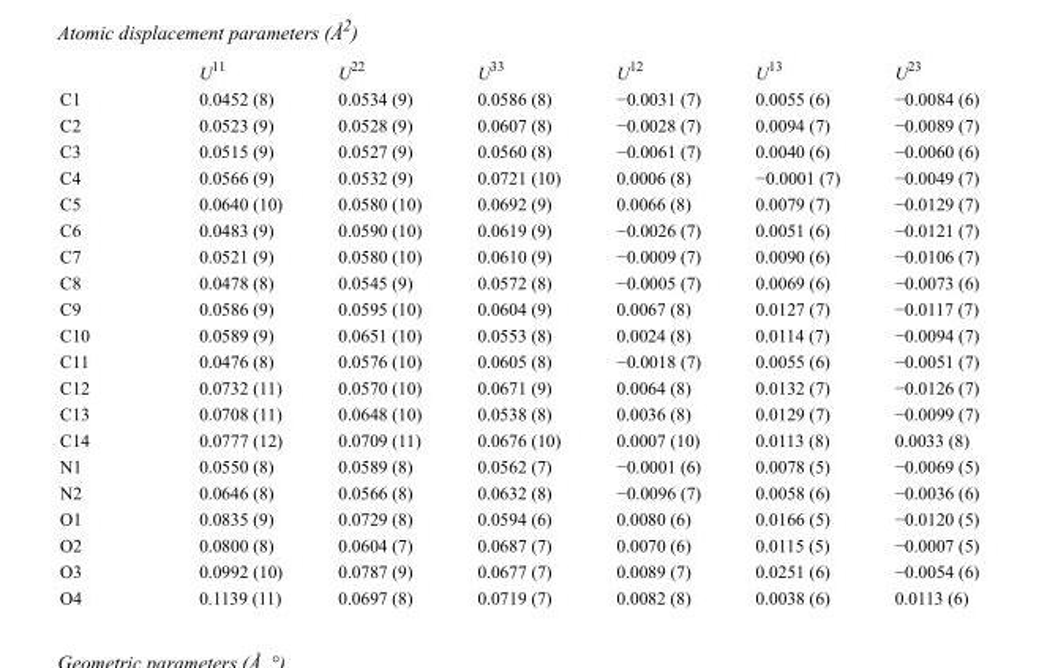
<table><thead><tr><td></td><td>U<sup>11</sup></td><td>U<sup>22</sup></td><td>U<sup>33</sup></td><td>U<sup>12</sup></td><td>U<sup>13</sup></td><td>U<sup>23</sup></td></tr></thead><tbody><tr><td>C1</td><td>0.0452 (8)</td><td>0.0534 (9)</td><td>0.0586 (8)</td><td>−0.0031 (7)</td><td>0.0055 (6)</td><td>−0.0084 (6)</td></tr><tr><td>C2</td><td>0.0523 (9)</td><td>0.0528 (9)</td><td>0.0607 (8)</td><td>−0.0028 (7)</td><td>0.0094 (7)</td><td>−0.0089 (7)</td></tr><tr><td>C3</td><td>0.0515 (9)</td><td>0.0527 (9)</td><td>0.0560 (8)</td><td>−0.0061 (7)</td><td>0.0040 (6)</td><td>−0.0060 (6)</td></tr><tr><td>C4</td><td>0.0566 (9)</td><td>0.0532 (9)</td><td>0.0721 (10)</td><td>0.0006 (8)</td><td>−0.0001 (7)</td><td>−0.0049 (7)</td></tr><tr><td>C5</td><td>0.0640 (10)</td><td>0.0580 (10)</td><td>0.0692 (9)</td><td>0.0066 (8)</td><td>0.0079 (7)</td><td>−0.0129 (7)</td></tr><tr><td>C6</td><td>0.0483 (9)</td><td>0.0590 (10)</td><td>0.0619 (9)</td><td>−0.0026 (7)</td><td>0.0051 (6)</td><td>−0.0121 (7)</td></tr><tr><td>C7</td><td>0.0521 (9)</td><td>0.0580 (10)</td><td>0.0610 (9)</td><td>−0.0009 (7)</td><td>0.0090 (6)</td><td>−0.0106 (7)</td></tr><tr><td>C8</td><td>0.0478 (8)</td><td>0.0545 (9)</td><td>0.0572 (8)</td><td>−0.0005 (7)</td><td>0.0069 (6)</td><td>−0.0073 (6)</td></tr><tr><td>C9</td><td>0.0586 (9)</td><td>0.0595 (10)</td><td>0.0604 (9)</td><td>0.0067 (8)</td><td>0.0127 (7)</td><td>−0.0117 (7)</td></tr><tr><td>C10</td><td>0.0589 (9)</td><td>0.0651 (10)</td><td>0.0553 (8)</td><td>0.0024 (8)</td><td>0.0114 (7)</td><td>−0.0094 (7)</td></tr><tr><td>C11</td><td>0.0476 (8)</td><td>0.0576 (10)</td><td>0.0605 (8)</td><td>−0.0018 (7)</td><td>0.0055 (6)</td><td>−0.0051 (7)</td></tr><tr><td>C12</td><td>0.0732 (11)</td><td>0.0570 (10)</td><td>0.0671 (9)</td><td>0.0064 (8)</td><td>0.0132 (7)</td><td>−0.0126 (7)</td></tr><tr><td>C13</td><td>0.0708 (11)</td><td>0.0648 (10)</td><td>0.0538 (8)</td><td>0.0036 (8)</td><td>0.0129 (7)</td><td>−0.0099 (7)</td></tr><tr><td>C14</td><td>0.0777 (12)</td><td>0.0709 (11)</td><td>0.0676 (10)</td><td>0.0007 (10)</td><td>0.0113 (8)</td><td>0.0033 (8)</td></tr><tr><td>N1</td><td>0.0550 (8)</td><td>0.0589 (8)</td><td>0.0562 (7)</td><td>−0.0001 (6)</td><td>0.0078 (5)</td><td>−0.0069 (5)</td></tr><tr><td>N2</td><td>0.0646 (8)</td><td>0.0566 (8)</td><td>0.0632 (8)</td><td>−0.0096 (7)</td><td>0.0058 (6)</td><td>−0.0036 (6)</td></tr><tr><td>O1</td><td>0.0835 (9)</td><td>0.0729 (8)</td><td>0.0594 (6)</td><td>0.0080 (6)</td><td>0.0166 (5)</td><td>−0.0120 (5)</td></tr><tr><td>O2</td><td>0.0800 (8)</td><td>0.0604 (7)</td><td>0.0687 (7)</td><td>0.0070 (6)</td><td>0.0115 (5)</td><td>−0.0007 (5)</td></tr><tr><td>O3</td><td>0.0992 (10)</td><td>0.0787 (9)</td><td>0.0677 (7)</td><td>0.0089 (7)</td><td>0.0251 (6)</td><td>−0.0054 (6)</td></tr><tr><td>O4</td><td>0.1139 (11)</td><td>0.0697 (8)</td><td>0.0719 (7)</td><td>0.0082 (8)</td><td>0.0038 (6)</td><td>0.0113 (6)</td></tr></tbody></table>